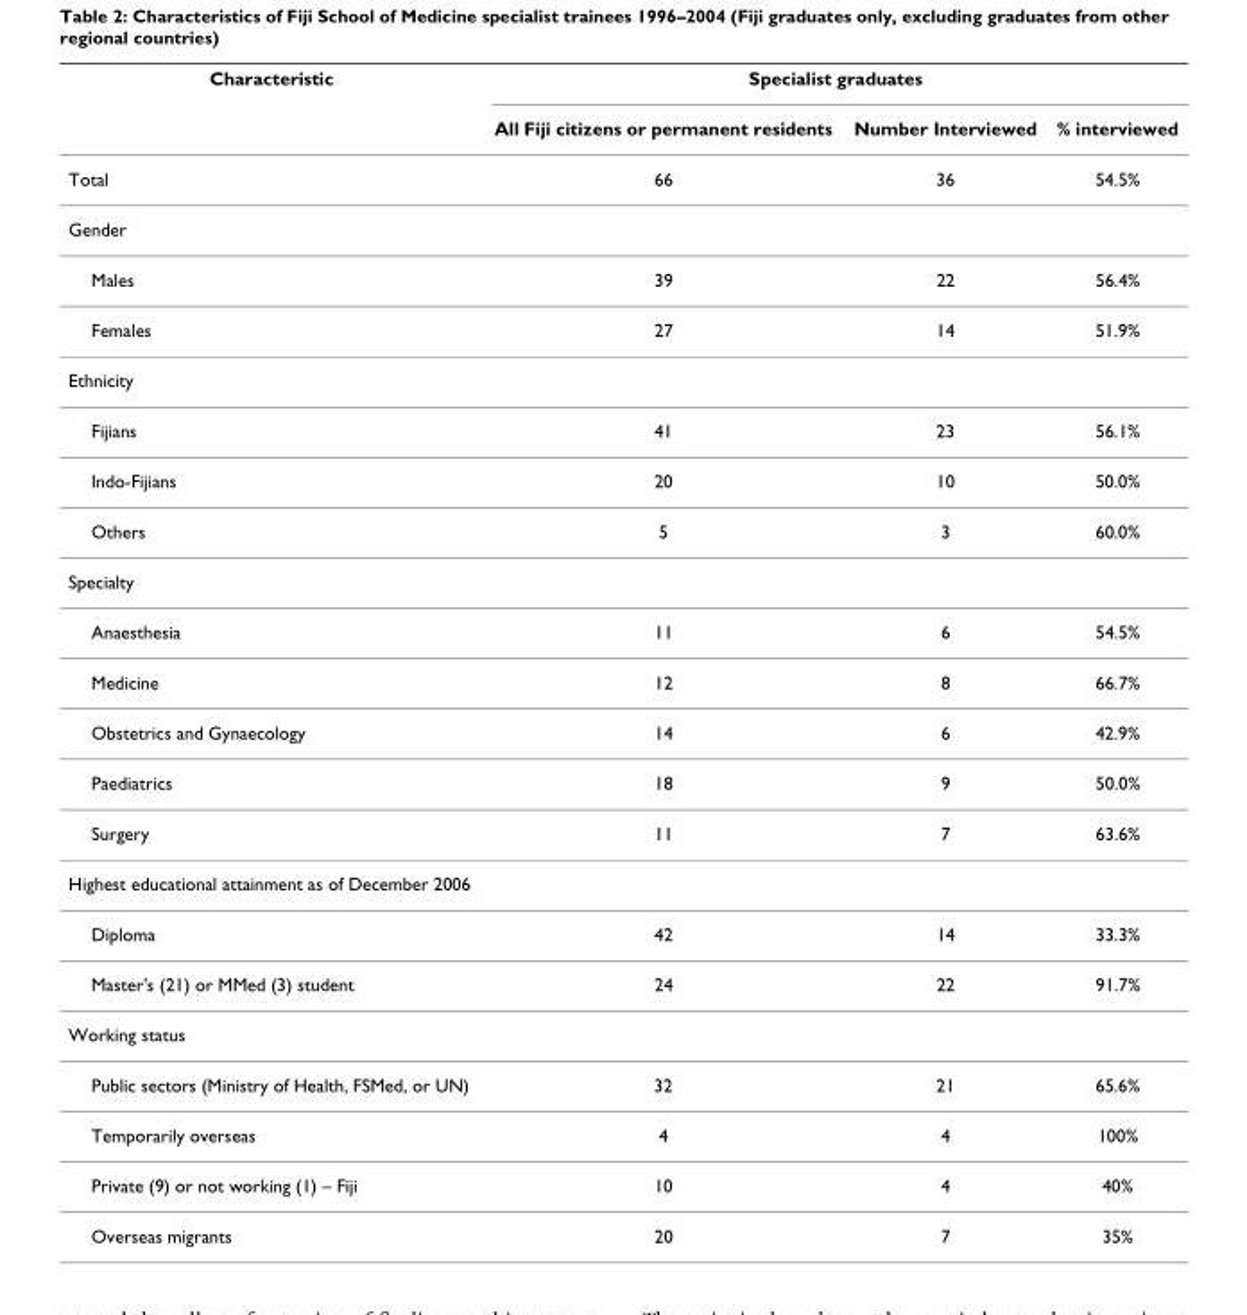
<table><thead><tr><td rowspan="2">Characteristic</td><td colspan="3">Specialist graduates</td></tr><tr><td>All Fiji citizens or permanent residents</td><td>Number Interviewed</td><td>% interviewed</td></tr></thead><tbody><tr><td>Total</td><td>66</td><td>36</td><td>54.5%</td></tr><tr><td colspan="4">Gender</td></tr><tr><td>Males</td><td>39</td><td>22</td><td>56.4%</td></tr><tr><td>Females</td><td>27</td><td>14</td><td>51.9%</td></tr><tr><td colspan="4">Ethnicity</td></tr><tr><td>Fijians</td><td>41</td><td>23</td><td>56.1%</td></tr><tr><td>Indo-Fijians</td><td>20</td><td>10</td><td>50.0%</td></tr><tr><td>Others</td><td>5</td><td>3</td><td>60.0%</td></tr><tr><td colspan="4">Specialty</td></tr><tr><td>Anaesthesia</td><td>11</td><td>6</td><td>54.5%</td></tr><tr><td>Medicine</td><td>12</td><td>8</td><td>66.7%</td></tr><tr><td>Obstetrics and Gynaecology</td><td>14</td><td>6</td><td>42.9%</td></tr><tr><td>Paediatrics</td><td>18</td><td>9</td><td>50.0%</td></tr><tr><td>Surgery</td><td>11</td><td>7</td><td>63.6%</td></tr><tr><td colspan="4">Highest educational attainment as of December 2006</td></tr><tr><td>Diploma</td><td>42</td><td>14</td><td>33.3%</td></tr><tr><td>Master&#x27;s (21) or MMed (3) student</td><td>24</td><td>22</td><td>91.7%</td></tr><tr><td colspan="4">Working status</td></tr><tr><td>Public sectors (Ministry of Health, FSMed, or UN)</td><td>32</td><td>21</td><td>65.6%</td></tr><tr><td>Temporarily overseas</td><td>4</td><td>4</td><td>100%</td></tr><tr><td>Private (9) or not working (1) – Fiji</td><td>10</td><td>4</td><td>40%</td></tr><tr><td>Overseas migrants</td><td>20</td><td>7</td><td>35%</td></tr></tbody></table>